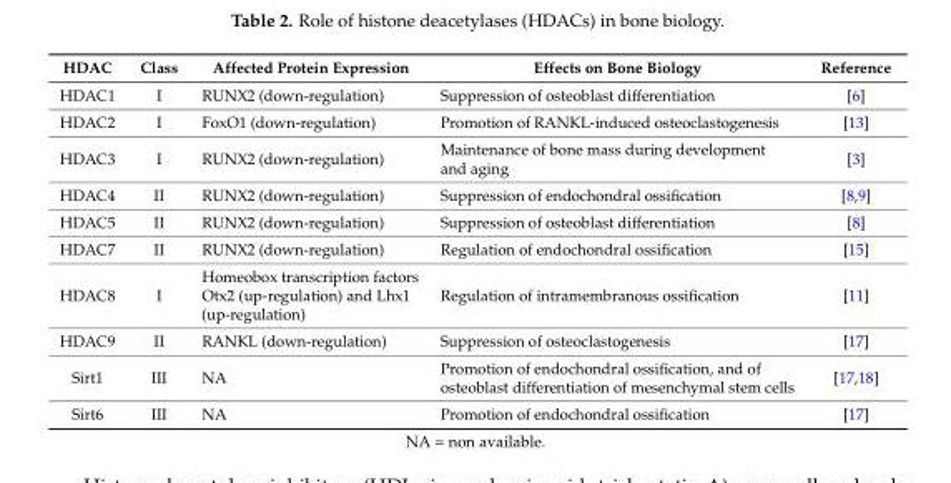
<table><thead><tr><td>HDAC</td><td>Class</td><td>Affected Protein Expression</td><td>Effects on Bone Biology</td><td>Reference</td></tr></thead><tbody><tr><td>HDAC1</td><td>I</td><td>RUNX2 (down-regulation)</td><td>Suppression of osteoblast differentiation</td><td>[6]</td></tr><tr><td>HDAC2</td><td>I</td><td>FoxO1 (down-regulation)</td><td>Promotion of RANKL-induced osteoclastogenesis</td><td>[13]</td></tr><tr><td>HDAC3</td><td>I</td><td>RUNX2 (down-regulation)</td><td>Maintenance of bone mass during development and aging</td><td>[3]</td></tr><tr><td>HDAC4</td><td>II</td><td>RUNX2 (down-regulation)</td><td>Suppression of endochondral ossification</td><td>[8,9]</td></tr><tr><td>HDAC5</td><td>II</td><td>RUNX2 (down-regulation)</td><td>Suppression of osteoblast differentiation</td><td>[8]</td></tr><tr><td>HDAC7</td><td>II</td><td>RUNX2 (down-regulation)</td><td>Regulation of endochondral ossification</td><td>[15]</td></tr><tr><td>HDAC8</td><td>I</td><td>Homeobox transcription factors Otx2 (up-regulation) and Lhx1 (up-regulation)</td><td>Regulation of intramembranous ossification</td><td>[11]</td></tr><tr><td>HDAC9</td><td>II</td><td>RANKL (down-regulation)</td><td>Suppression of osteoclastogenesis</td><td>[17]</td></tr><tr><td>Sirt1</td><td>III</td><td>NA</td><td>Promotion of endochondral ossification, and of osteoblast differentiation of mesenchymal stem cells</td><td>[17,18]</td></tr><tr><td>Sirt6</td><td>III</td><td>NA</td><td>Promotion of endochondral ossification</td><td>[17]</td></tr></tbody></table>